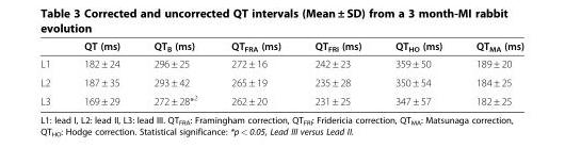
<table><thead><tr><td></td><td>QT (ms)</td><td>QT<sub>B</sub> (ms)</td><td>QT<sub>FRA</sub> (ms)</td><td>QT<sub>FRI</sub> (ms)</td><td>QT<sub>HO</sub> (ms)</td><td>QT<sub>MA</sub> (ms)</td></tr></thead><tbody><tr><td>L1</td><td>182 ± 24</td><td>296 ± 25</td><td>272 ± 16</td><td>242 ± 23</td><td>359 ± 50</td><td>189 ± 20</td></tr><tr><td>L2</td><td>187 ± 35</td><td>293 ± 42</td><td>265 ± 19</td><td>235 ± 28</td><td>350 ± 54</td><td>184 ± 25</td></tr><tr><td>L3</td><td>169 ± 29</td><td>272 ± 28*<sup>2</sup></td><td>262 ± 20</td><td>231 ± 25</td><td>347 ± 57</td><td>182 ± 25</td></tr></tbody></table>